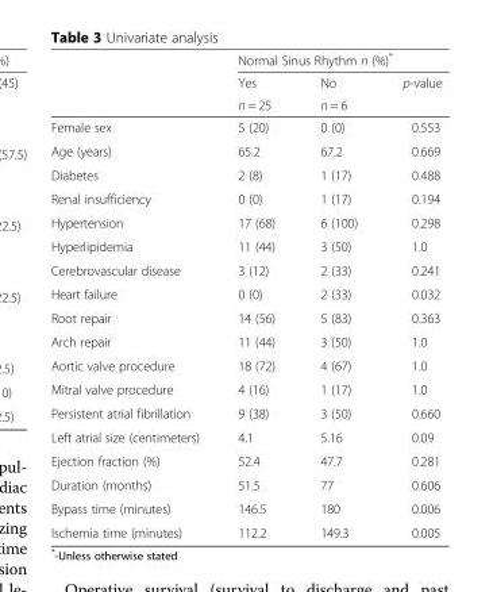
<table><thead><tr><td rowspan="3"></td><td colspan="3">Normal Sinus Rhythm n (%)*</td></tr><tr><td rowspan="2">Yes n = 25</td><td rowspan="2">No n = 6</td><td rowspan="2">p-value</td></tr><tr></tr></thead><tbody><tr><td>Female sex</td><td>5 (20)</td><td>0 (0)</td><td>0.553</td></tr><tr><td>Age (years)</td><td>65.2</td><td>67.2</td><td>0.669</td></tr><tr><td>Diabetes</td><td>2 (8)</td><td>1 (17)</td><td>0.488</td></tr><tr><td>Renal insufficiency</td><td>0 (0)</td><td>1 (17)</td><td>0.194</td></tr><tr><td>Hypertension</td><td>17 (68)</td><td>6 (100)</td><td>0.298</td></tr><tr><td>Hyperlipidemia</td><td>11 (44)</td><td>3 (50)</td><td>1.0</td></tr><tr><td>Cerebrovascular disease</td><td>3 (12)</td><td>2 (33)</td><td>0.241</td></tr><tr><td>Heart failure</td><td>0 (0)</td><td>2 (33)</td><td>0.032</td></tr><tr><td>Root repair</td><td>14 (56)</td><td>5 (83)</td><td>0.363</td></tr><tr><td>Arch repair</td><td>11 (44)</td><td>3 (50)</td><td>1.0</td></tr><tr><td>Aortic valve procedure</td><td>18 (72)</td><td>4 (67)</td><td>1.0</td></tr><tr><td>Mitral valve procedure</td><td>4 (16)</td><td>1 (17)</td><td>1.0</td></tr><tr><td>Persistent atrial fibrillation</td><td>9 (38)</td><td>3 (50)</td><td>0.660</td></tr><tr><td>Left atrial size (centimeters)</td><td>4.1</td><td>5.16</td><td>0.09</td></tr><tr><td>Ejection fraction (%)</td><td>52.4</td><td>47.7</td><td>0.281</td></tr><tr><td>Duration (months)</td><td>51.5</td><td>77</td><td>0.606</td></tr><tr><td>Bypass time (minutes)</td><td>146.5</td><td>180</td><td>0.006</td></tr><tr><td>Ischemia time (minutes)</td><td>112.2</td><td>149.3</td><td>0.005</td></tr></tbody></table>